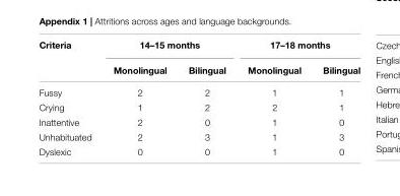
<table><thead><tr><td rowspan="2">Criteria</td><td colspan="2">14–15 months</td><td colspan="2">17–18 months</td></tr><tr><td>Monolingual</td><td>Bilingual</td><td>Monolingual</td><td>Bilingual</td></tr></thead><tbody><tr><td>Fussy</td><td>2</td><td>2</td><td>1</td><td>1</td></tr><tr><td>Crying</td><td>1</td><td>2</td><td>2</td><td>1</td></tr><tr><td>Inattentive</td><td>2</td><td>0</td><td>1</td><td>0</td></tr><tr><td>Unhabituated</td><td>2</td><td>3</td><td>1</td><td>3</td></tr><tr><td>Dyslexic</td><td>0</td><td>0</td><td>1</td><td>0</td></tr></tbody></table>